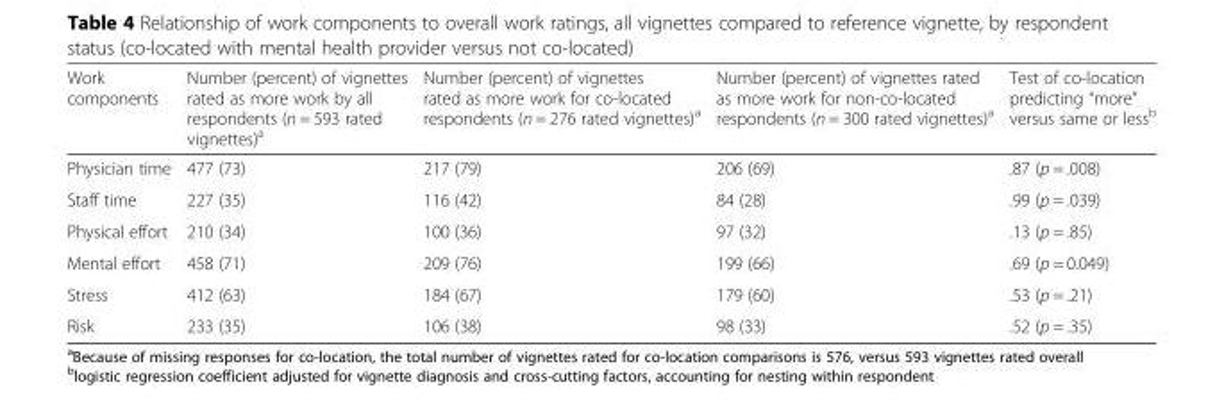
<table><thead><tr><td>Work components</td><td>Number (percent) of vignettes rated as more work by all respondents (n = 593 rated vignettes)<sup>a</sup></td><td>Number (percent) of vignettes rated as more work for co-located respondents (n = 276 rated vignettes)<sup>a</sup></td><td>Number (percent) of vignettes rated as more work for non-co-located respondents (n = 300 rated vignettes)<sup>a</sup></td><td>Test of co-location predicting “more” versus same or less<sup>b</sup></td></tr></thead><tbody><tr><td>Physician time</td><td>477 (73)</td><td>217 (79)</td><td>206 (69)</td><td>.87 (p = .008)</td></tr><tr><td>Staff time</td><td>227 (35)</td><td>116 (42)</td><td>84 (28)</td><td>.99 (p = .039)</td></tr><tr><td>Physical effort</td><td>210 (34)</td><td>100 (36)</td><td>97 (32)</td><td>.13 (p = .85)</td></tr><tr><td>Mental effort</td><td>458 (71)</td><td>209 (76)</td><td>199 (66)</td><td>.69 (p = 0.049)</td></tr><tr><td>Stress</td><td>412 (63)</td><td>184 (67)</td><td>179 (60)</td><td>.53 (p = .21)</td></tr><tr><td>Risk</td><td>233 (35)</td><td>106 (38)</td><td>98 (33)</td><td>.52 (p = .35)</td></tr></tbody></table>